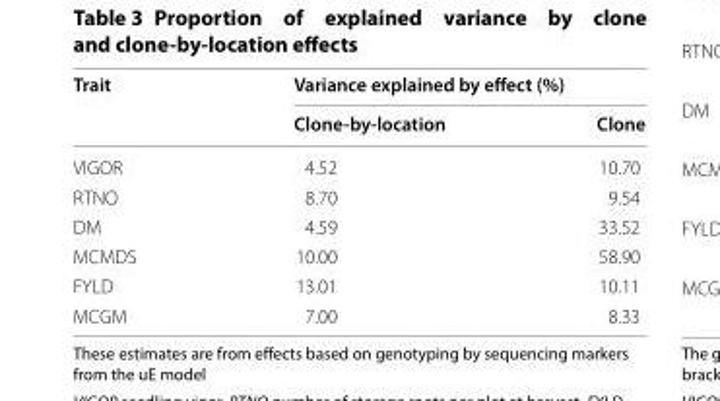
<table><thead><tr><td rowspan="2">Trait</td><td colspan="2">Variance explained by effect (%)</td></tr><tr><td>Clone‑by‑location</td><td>Clone</td></tr></thead><tbody><tr><td>VIGOR</td><td>4.52</td><td>10.70</td></tr><tr><td>RTNO</td><td>8.70</td><td>9.54</td></tr><tr><td>DM</td><td>4.59</td><td>33.52</td></tr><tr><td>MCMDS</td><td>10.00</td><td>58.90</td></tr><tr><td>FYLD</td><td>13.01</td><td>10.11</td></tr><tr><td>MCGM</td><td>7.00</td><td>8.33</td></tr></tbody></table>